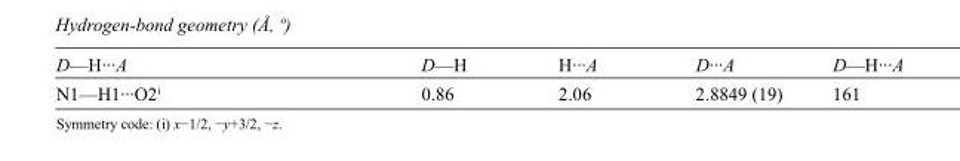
<table><tbody><tr><td>D—H···A</td><td>D—H</td><td>H···A</td><td>D···A</td><td>D—H···A</td></tr><tr><td>N1—H1···O2<sup>i</sup></td><td>0.86</td><td>2.06</td><td>2.8849 (19)</td><td>161</td></tr></tbody></table>